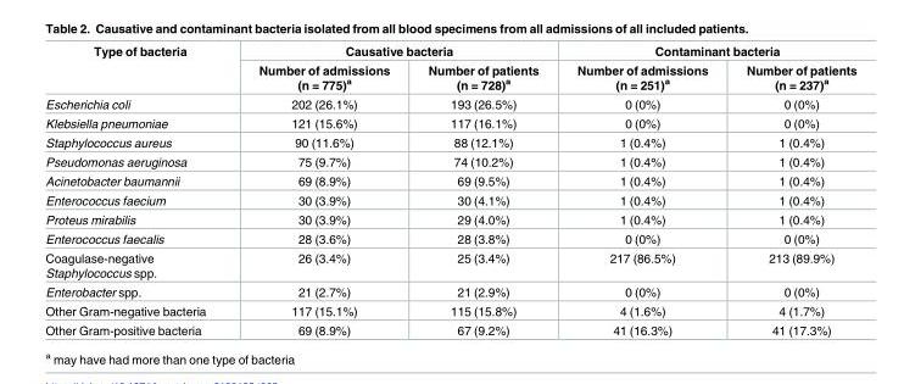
<table><thead><tr><td rowspan="2">Type of bacteria</td><td colspan="2">Causative bacteria</td><td colspan="2">Contaminant bacteria</td></tr><tr><td>Number of admissions (n = 775)<sup>a</sup></td><td>Number of patients (n = 728)<sup>a</sup></td><td>Number of admissions (n = 251)<sup>a</sup></td><td>Number of patients (n = 237)<sup>a</sup></td></tr></thead><tbody><tr><td>Escherichia coli</td><td>202 (26.1%)</td><td>193 (26.5%)</td><td>0 (0%)</td><td>0 (0%)</td></tr><tr><td>Klebsiella pneumoniae</td><td>121 (15.6%)</td><td>117 (16.1%)</td><td>0 (0%)</td><td>0 (0%)</td></tr><tr><td>Staphylococcus aureus</td><td>90 (11.6%)</td><td>88 (12.1%)</td><td>1 (0.4%)</td><td>1 (0.4%)</td></tr><tr><td>Pseudomonas aeruginosa</td><td>75 (9.7%)</td><td>74 (10.2%)</td><td>1 (0.4%)</td><td>1 (0.4%)</td></tr><tr><td>Acinetobacter baumannii</td><td>69 (8.9%)</td><td>69 (9.5%)</td><td>1 (0.4%)</td><td>1 (0.4%)</td></tr><tr><td>Enterococcus faecium</td><td>30 (3.9%)</td><td>30 (4.1%)</td><td>1 (0.4%)</td><td>1 (0.4%)</td></tr><tr><td>Proteus mirabilis</td><td>30 (3.9%)</td><td>29 (4.0%)</td><td>1 (0.4%)</td><td>1 (0.4%)</td></tr><tr><td>Enterococcus faecalis</td><td>28 (3.6%)</td><td>28 (3.8%)</td><td>0 (0%)</td><td>0 (0%)</td></tr><tr><td>Coagulase-negative Staphylococcus spp.</td><td>26 (3.4%)</td><td>25 (3.4%)</td><td>217 (86.5%)</td><td>213 (89.9%)</td></tr><tr><td>Enterobacter spp.</td><td>21 (2.7%)</td><td>21 (2.9%)</td><td>0 (0%)</td><td>0 (0%)</td></tr><tr><td>Other Gram-negative bacteria</td><td>117 (15.1%)</td><td>115 (15.8%)</td><td>4 (1.6%)</td><td>4 (1.7%)</td></tr><tr><td>Other Gram-positive bacteria</td><td>69 (8.9%)</td><td>67 (9.2%)</td><td>41 (16.3%)</td><td>41 (17.3%)</td></tr></tbody></table>